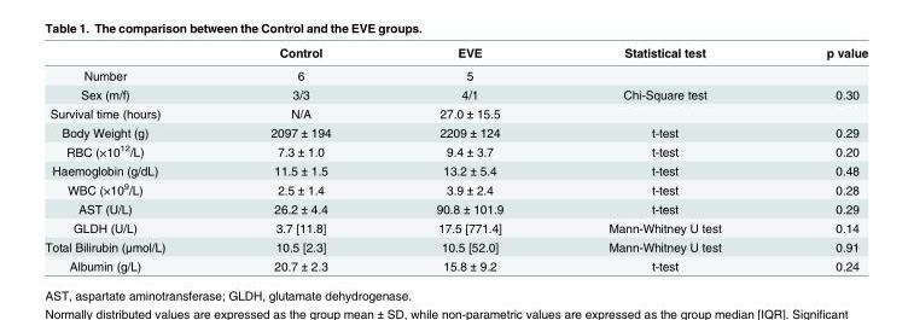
<table><thead><tr><td></td><td>Control</td><td>EVE</td><td>Statistical test</td><td>p value</td></tr></thead><tbody><tr><td>Number</td><td>6</td><td>5</td><td></td><td></td></tr><tr><td>Sex (m/f)</td><td>3/3</td><td>4/1</td><td>Chi-Square test</td><td>0.30</td></tr><tr><td>Survival time (hours)</td><td>N/A</td><td>27.0 ± 15.5</td><td></td><td></td></tr><tr><td>Body Weight (g)</td><td>2097 ± 194</td><td>2209 ± 124</td><td>t-test</td><td>0.29</td></tr><tr><td>RBC (×10<sup>12</sup>/L)</td><td>7.3 ± 1.0</td><td>9.4 ± 3.7</td><td>t-test</td><td>0.20</td></tr><tr><td>Haemoglobin (g/dL)</td><td>11.5 ± 1.5</td><td>13.2 ± 5.4</td><td>t-test</td><td>0.48</td></tr><tr><td>WBC (×10<sup>9</sup>/L)</td><td>2.5 ± 1.4</td><td>3.9 ± 2.4</td><td>t-test</td><td>0.28</td></tr><tr><td>AST (U/L)</td><td>26.2 ± 4.4</td><td>90.8 ± 101.9</td><td>t-test</td><td>0.29</td></tr><tr><td>GLDH (U/L)</td><td>3.7 [11.8]</td><td>17.5 [771.4]</td><td>Mann-Whitney U test</td><td>0.14</td></tr><tr><td>Total Bilirubin (μmol/L)</td><td>10.5 [2.3]</td><td>10.5 [52.0]</td><td>Mann-Whitney U test</td><td>0.91</td></tr><tr><td>Albumin (g/L)</td><td>20.7 ± 2.3</td><td>15.8 ± 9.2</td><td>t-test</td><td>0.24</td></tr></tbody></table>